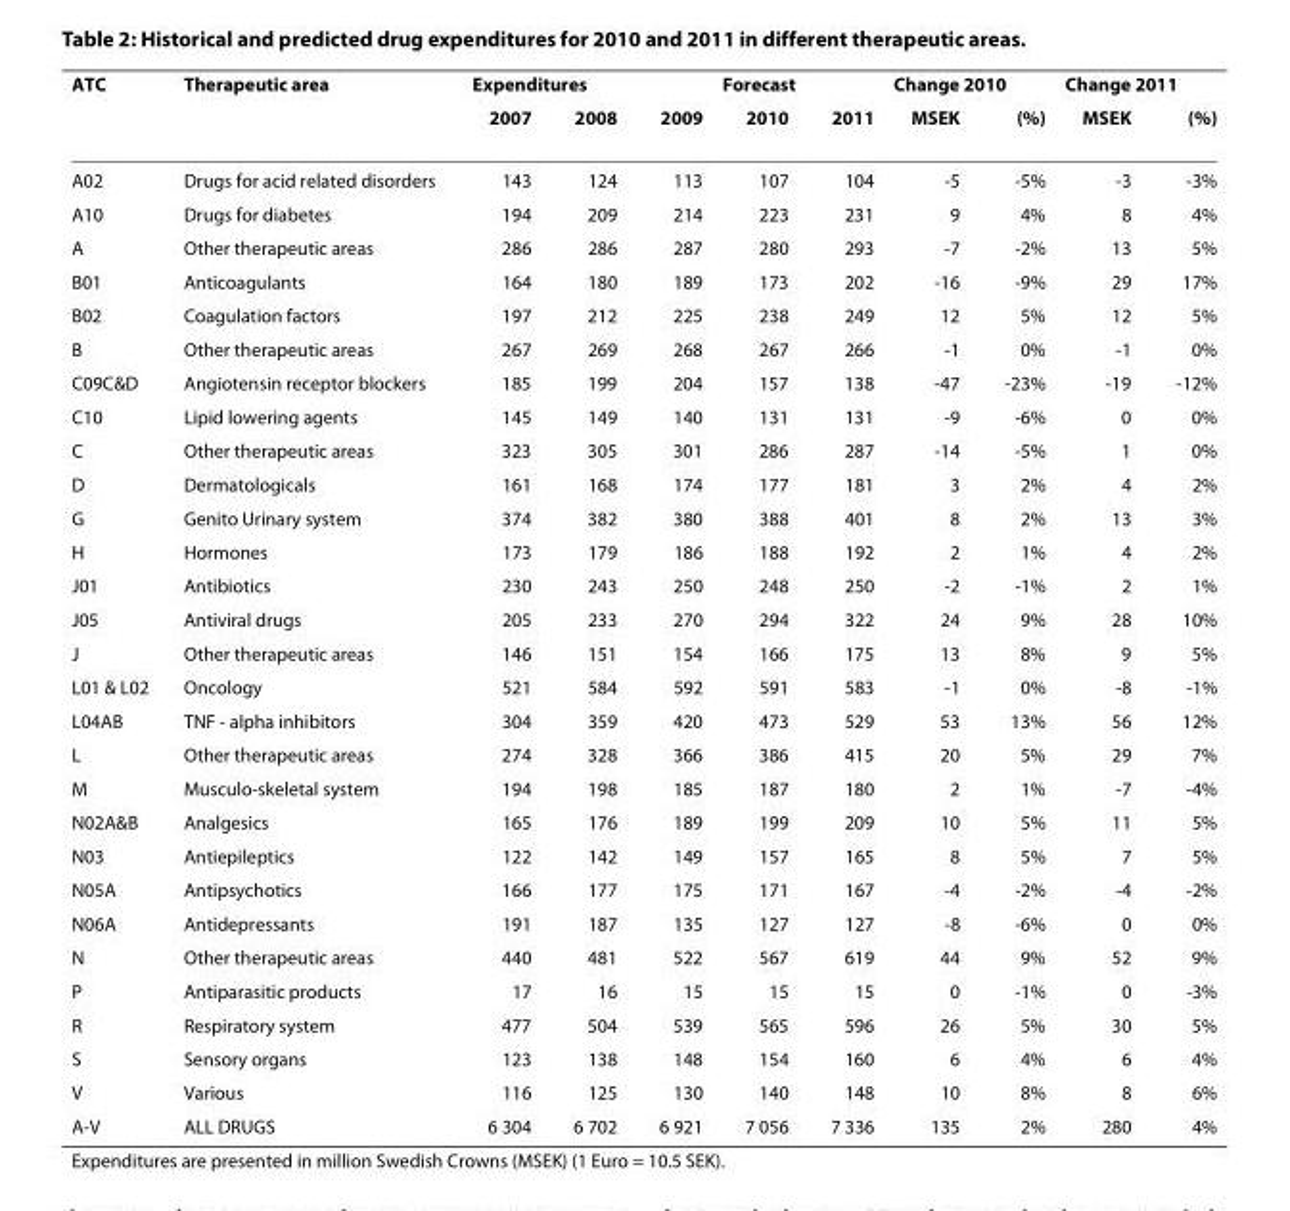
<table><thead><tr><td rowspan="2">ATC</td><td rowspan="2">Therapeutic area</td><td colspan="3">Expenditures</td><td colspan="2">Forecast</td><td colspan="2">Change 2010</td><td colspan="2">Change 2011</td></tr><tr><td>2007</td><td>2008</td><td>2009</td><td>2010</td><td>2011</td><td>MSEK</td><td>(%)</td><td>MSEK</td><td>(%)</td></tr></thead><tbody><tr><td>A02</td><td>Drugs for acid related disorders</td><td>143</td><td>124</td><td>113</td><td>107</td><td>104</td><td>-5</td><td>-5%</td><td>-3</td><td>-3%</td></tr><tr><td>A10</td><td>Drugs for diabetes</td><td>194</td><td>209</td><td>214</td><td>223</td><td>231</td><td>9</td><td>4%</td><td>8</td><td>4%</td></tr><tr><td>A</td><td>Other therapeutic areas</td><td>286</td><td>286</td><td>287</td><td>280</td><td>293</td><td>-7</td><td>-2%</td><td>13</td><td>5%</td></tr><tr><td>B01</td><td>Anticoagulants</td><td>164</td><td>180</td><td>189</td><td>173</td><td>202</td><td>-16</td><td>-9%</td><td>29</td><td>17%</td></tr><tr><td>B02</td><td>Coagulation factors</td><td>197</td><td>212</td><td>225</td><td>238</td><td>249</td><td>12</td><td>5%</td><td>12</td><td>5%</td></tr><tr><td>B</td><td>Other therapeutic areas</td><td>267</td><td>269</td><td>268</td><td>267</td><td>266</td><td>-1</td><td>0%</td><td>-1</td><td>0%</td></tr><tr><td>C09C&amp;D</td><td>Angiotensin receptor blockers</td><td>185</td><td>199</td><td>204</td><td>157</td><td>138</td><td>-47</td><td>-23%</td><td>-19</td><td>-12%</td></tr><tr><td>C10</td><td>Lipid lowering agents</td><td>145</td><td>149</td><td>140</td><td>131</td><td>131</td><td>-9</td><td>-6%</td><td>0</td><td>0%</td></tr><tr><td>C</td><td>Other therapeutic areas</td><td>323</td><td>305</td><td>301</td><td>286</td><td>287</td><td>-14</td><td>-5%</td><td>1</td><td>0%</td></tr><tr><td>D</td><td>Dermatologicals</td><td>161</td><td>168</td><td>174</td><td>177</td><td>181</td><td>3</td><td>2%</td><td>4</td><td>2%</td></tr><tr><td>G</td><td>Genito Urinary system</td><td>374</td><td>382</td><td>380</td><td>388</td><td>401</td><td>8</td><td>2%</td><td>13</td><td>3%</td></tr><tr><td>H</td><td>Hormones</td><td>173</td><td>179</td><td>186</td><td>188</td><td>192</td><td>2</td><td>1%</td><td>4</td><td>2%</td></tr><tr><td>J01</td><td>Antibiotics</td><td>230</td><td>243</td><td>250</td><td>248</td><td>250</td><td>-2</td><td>-1%</td><td>2</td><td>1%</td></tr><tr><td>J05</td><td>Antiviral drugs</td><td>205</td><td>233</td><td>270</td><td>294</td><td>322</td><td>24</td><td>9%</td><td>28</td><td>10%</td></tr><tr><td>J</td><td>Other therapeutic areas</td><td>146</td><td>151</td><td>154</td><td>166</td><td>175</td><td>13</td><td>8%</td><td>9</td><td>5%</td></tr><tr><td>L01 &amp; L02</td><td>Oncology</td><td>521</td><td>584</td><td>592</td><td>591</td><td>583</td><td>-1</td><td>0%</td><td>-8</td><td>-1%</td></tr><tr><td>L04AB</td><td>TNF - alpha inhibitors</td><td>304</td><td>359</td><td>420</td><td>473</td><td>529</td><td>53</td><td>13%</td><td>56</td><td>12%</td></tr><tr><td>L</td><td>Other therapeutic areas</td><td>274</td><td>328</td><td>366</td><td>386</td><td>415</td><td>20</td><td>5%</td><td>29</td><td>7%</td></tr><tr><td>M</td><td>Musculo-skeletal system</td><td>194</td><td>198</td><td>185</td><td>187</td><td>180</td><td>2</td><td>1%</td><td>-7</td><td>-4%</td></tr><tr><td>N02A&amp;B</td><td>Analgesics</td><td>165</td><td>176</td><td>189</td><td>199</td><td>209</td><td>10</td><td>5%</td><td>11</td><td>5%</td></tr><tr><td>N03</td><td>Antiepileptics</td><td>122</td><td>142</td><td>149</td><td>157</td><td>165</td><td>8</td><td>5%</td><td>7</td><td>5%</td></tr><tr><td>N05A</td><td>Antipsychotics</td><td>166</td><td>177</td><td>175</td><td>171</td><td>167</td><td>-4</td><td>-2%</td><td>-4</td><td>-2%</td></tr><tr><td>N06A</td><td>Antidepressants</td><td>191</td><td>187</td><td>135</td><td>127</td><td>127</td><td>-8</td><td>-6%</td><td>0</td><td>0%</td></tr><tr><td>N</td><td>Other therapeutic areas</td><td>440</td><td>481</td><td>522</td><td>567</td><td>619</td><td>44</td><td>9%</td><td>52</td><td>9%</td></tr><tr><td>P</td><td>Antiparasitic products</td><td>17</td><td>16</td><td>15</td><td>15</td><td>15</td><td>0</td><td>-1%</td><td>0</td><td>-3%</td></tr><tr><td>R</td><td>Respiratory system</td><td>477</td><td>504</td><td>539</td><td>565</td><td>596</td><td>26</td><td>5%</td><td>30</td><td>5%</td></tr><tr><td>S</td><td>Sensory organs</td><td>123</td><td>138</td><td>148</td><td>154</td><td>160</td><td>6</td><td>4%</td><td>6</td><td>4%</td></tr><tr><td>V</td><td>Various</td><td>116</td><td>125</td><td>130</td><td>140</td><td>148</td><td>10</td><td>8%</td><td>8</td><td>6%</td></tr><tr><td>A-V</td><td>ALL DRUGS</td><td>6 304</td><td>6 702</td><td>6 921</td><td>7 056</td><td>7 336</td><td>135</td><td>2%</td><td>280</td><td>4%</td></tr></tbody></table>